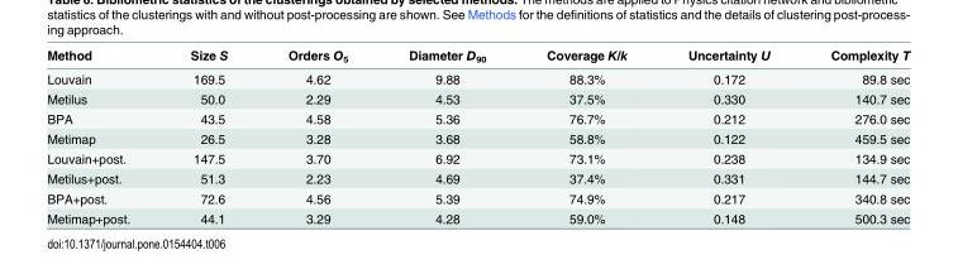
<table><thead><tr><td>Method</td><td>Size S</td><td>Orders O<sub>5</sub></td><td>Diameter D<sub>90</sub></td><td>Coverage K/k</td><td>Uncertainty U</td><td>Complexity T</td></tr></thead><tbody><tr><td>Louvain</td><td>169.5</td><td>4.62</td><td>9.88</td><td>88.3%</td><td>0.172</td><td>89.8 sec</td></tr><tr><td>Metilus</td><td>50.0</td><td>2.29</td><td>4.53</td><td>37.5%</td><td>0.330</td><td>140.7 sec</td></tr><tr><td>BPA</td><td>43.5</td><td>4.58</td><td>5.36</td><td>76.7%</td><td>0.212</td><td>276.0 sec</td></tr><tr><td>Metimap</td><td>26.5</td><td>3.28</td><td>3.68</td><td>58.8%</td><td>0.122</td><td>459.5 sec</td></tr><tr><td>Louvain+post.</td><td>147.5</td><td>3.70</td><td>6.92</td><td>73.1%</td><td>0.238</td><td>134.9 sec</td></tr><tr><td>Metilus+post.</td><td>51.3</td><td>2.23</td><td>4.69</td><td>37.4%</td><td>0.331</td><td>144.7 sec</td></tr><tr><td>BPA+post.</td><td>72.6</td><td>4.56</td><td>5.39</td><td>74.9%</td><td>0.217</td><td>340.8 sec</td></tr><tr><td>Metimap+post.</td><td>44.1</td><td>3.29</td><td>4.28</td><td>59.0%</td><td>0.148</td><td>500.3 sec</td></tr></tbody></table>